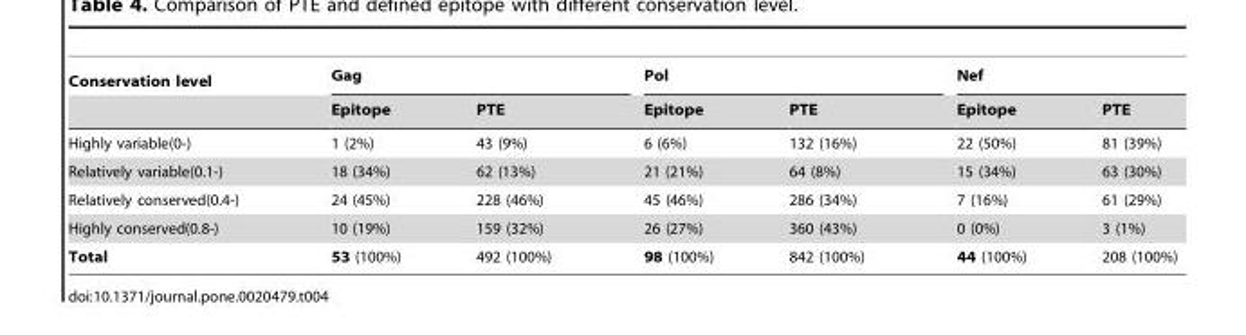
<table><thead><tr><td rowspan="2">Conservation level</td><td colspan="2">Gag</td><td colspan="2">Pol</td><td colspan="2">Nef</td></tr><tr><td>Epitope</td><td>PTE</td><td>Epitope</td><td>PTE</td><td>Epitope</td><td>PTE</td></tr></thead><tbody><tr><td>Highly variable(0-)</td><td>1 (2%)</td><td>43 (9%)</td><td>6 (6%)</td><td>132 (16%)</td><td>22 (50%)</td><td>81 (39%)</td></tr><tr><td>Relatively variable(0.1-)</td><td>18 (34%)</td><td>62 (13%)</td><td>21 (21%)</td><td>64 (8%)</td><td>15 (34%)</td><td>63 (30%)</td></tr><tr><td>Relatively conserved(0.4-)</td><td>24 (45%)</td><td>228 (46%)</td><td>45 (46%)</td><td>286 (34%)</td><td>7 (16%)</td><td>61 (29%)</td></tr><tr><td>Highly conserved(0.8-)</td><td>10 (19%)</td><td>159 (32%)</td><td>26 (27%)</td><td>360 (43%)</td><td>0 (0%)</td><td>3 (1%)</td></tr><tr><td>Total</td><td>53 (100%)</td><td>492 (100%)</td><td>98 (100%)</td><td>842 (100%)</td><td>44 (100%)</td><td>208 (100%)</td></tr></tbody></table>